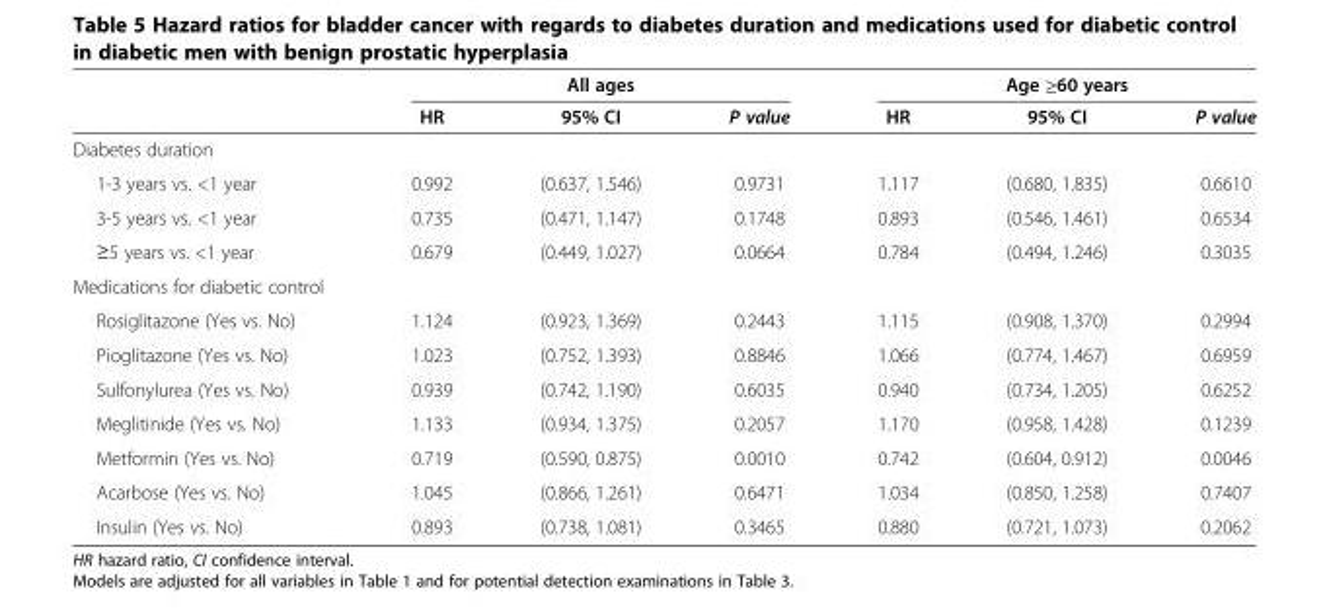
<table><thead><tr><td rowspan="2"></td><td colspan="3">All ages</td><td colspan="3">Age ≥60 years</td></tr><tr><td>HR</td><td>95% CI</td><td>P value</td><td>HR</td><td>95% CI</td><td>P value</td></tr></thead><tbody><tr><td colspan="7">Diabetes duration</td></tr><tr><td>1-3 years vs. &lt;1 year</td><td>0.992</td><td>(0.637, 1.546)</td><td>0.9731</td><td>1.117</td><td>(0.680, 1.835)</td><td>0.6610</td></tr><tr><td>3-5 years vs. &lt;1 year</td><td>0.735</td><td>(0.471, 1.147)</td><td>0.1748</td><td>0.893</td><td>(0.546, 1.461)</td><td>0.6534</td></tr><tr><td>≥5 years vs. &lt;1 year</td><td>0.679</td><td>(0.449, 1.027)</td><td>0.0664</td><td>0.784</td><td>(0.494, 1.246)</td><td>0.3035</td></tr><tr><td colspan="7">Medications for diabetic control</td></tr><tr><td>Rosiglitazone (Yes vs. No)</td><td>1.124</td><td>(0.923, 1.369)</td><td>0.2443</td><td>1.115</td><td>(0.908, 1.370)</td><td>0.2994</td></tr><tr><td>Pioglitazone (Yes vs. No)</td><td>1.023</td><td>(0.752, 1.393)</td><td>0.8846</td><td>1.066</td><td>(0.774, 1.467)</td><td>0.6959</td></tr><tr><td>Sulfonylurea (Yes vs. No)</td><td>0.939</td><td>(0.742, 1.190)</td><td>0.6035</td><td>0.940</td><td>(0.734, 1.205)</td><td>0.6252</td></tr><tr><td>Meglitinide (Yes vs. No)</td><td>1.133</td><td>(0.934, 1.375)</td><td>0.2057</td><td>1.170</td><td>(0.958, 1.428)</td><td>0.1239</td></tr><tr><td>Metformin (Yes vs. No)</td><td>0.719</td><td>(0.590, 0.875)</td><td>0.0010</td><td>0.742</td><td>(0.604, 0.912)</td><td>0.0046</td></tr><tr><td>Acarbose (Yes vs. No)</td><td>1.045</td><td>(0.866, 1.261)</td><td>0.6471</td><td>1.034</td><td>(0.850, 1.258)</td><td>0.7407</td></tr><tr><td>Insulin (Yes vs. No)</td><td>0.893</td><td>(0.738, 1.081)</td><td>0.3465</td><td>0.880</td><td>(0.721, 1.073)</td><td>0.2062</td></tr></tbody></table>